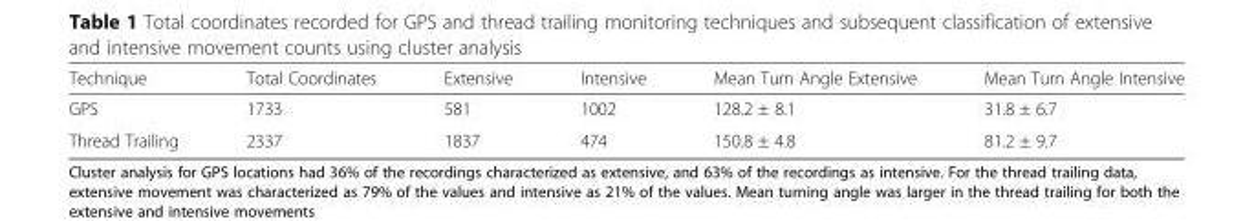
<table><thead><tr><td>Technique</td><td>Total Coordinates</td><td>Extensive</td><td>Intensive</td><td>Mean Turn Angle Extensive</td><td>Mean Turn Angle Intensive</td></tr></thead><tbody><tr><td>GPS</td><td>1733</td><td>581</td><td>1002</td><td>128.2 ± 8.1</td><td>31.8 ± 6.7</td></tr><tr><td>Thread Trailing</td><td>2337</td><td>1837</td><td>474</td><td>150.8 ± 4.8</td><td>81.2 ± 9.7</td></tr></tbody></table>